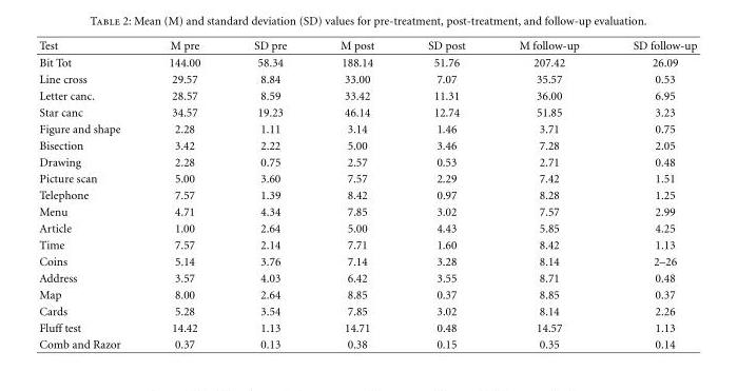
<table><thead><tr><td>Test</td><td>M pre</td><td>SD pre</td><td>M post</td><td>SD post</td><td>M follow-up</td><td>SD follow-up</td></tr></thead><tbody><tr><td>Bit Tot</td><td>144.00</td><td>58.34</td><td>188.14</td><td>51.76</td><td>207.42</td><td>26.09</td></tr><tr><td>Line cross</td><td>29.57</td><td>8.84</td><td>33.00</td><td>7.07</td><td>35.57</td><td>0.53</td></tr><tr><td>Letter canc.</td><td>28.57</td><td>8.59</td><td>33.42</td><td>11.31</td><td>36.00</td><td>6.95</td></tr><tr><td>Star canc</td><td>34.57</td><td>19.23</td><td>46.14</td><td>12.74</td><td>51.85</td><td>3.23</td></tr><tr><td>Figure and shape</td><td>2.28</td><td>1.11</td><td>3.14</td><td>1.46</td><td>3.71</td><td>0.75</td></tr><tr><td>Bisection</td><td>3.42</td><td>2.22</td><td>5.00</td><td>3.46</td><td>7.28</td><td>2.05</td></tr><tr><td>Drawing</td><td>2.28</td><td>0.75</td><td>2.57</td><td>0.53</td><td>2.71</td><td>0.48</td></tr><tr><td>Picture scan</td><td>5.00</td><td>3.60</td><td>7.57</td><td>2.29</td><td>7.42</td><td>1.51</td></tr><tr><td>Telephone</td><td>7.57</td><td>1.39</td><td>8.42</td><td>0.97</td><td>8.28</td><td>1.25</td></tr><tr><td>Menu</td><td>4.71</td><td>4.34</td><td>7.85</td><td>3.02</td><td>7.57</td><td>2.99</td></tr><tr><td>Article</td><td>1.00</td><td>2.64</td><td>5.00</td><td>4.43</td><td>5.85</td><td>4.25</td></tr><tr><td>Time</td><td>7.57</td><td>2.14</td><td>7.71</td><td>1.60</td><td>8.42</td><td>1.13</td></tr><tr><td>Coins</td><td>5.14</td><td>3.76</td><td>7.14</td><td>3.28</td><td>8.14</td><td>2–26</td></tr><tr><td>Address</td><td>3.57</td><td>4.03</td><td>6.42</td><td>3.55</td><td>8.71</td><td>0.48</td></tr><tr><td>Map</td><td>8.00</td><td>2.64</td><td>8.85</td><td>0.37</td><td>8.85</td><td>0.37</td></tr><tr><td>Cards</td><td>5.28</td><td>3.54</td><td>7.85</td><td>3.02</td><td>8.14</td><td>2.26</td></tr><tr><td>Fluff test</td><td>14.42</td><td>1.13</td><td>14.71</td><td>0.48</td><td>14.57</td><td>1.13</td></tr><tr><td>Comb and Razor</td><td>0.37</td><td>0.13</td><td>0.38</td><td>0.15</td><td>0.35</td><td>0.14</td></tr></tbody></table>